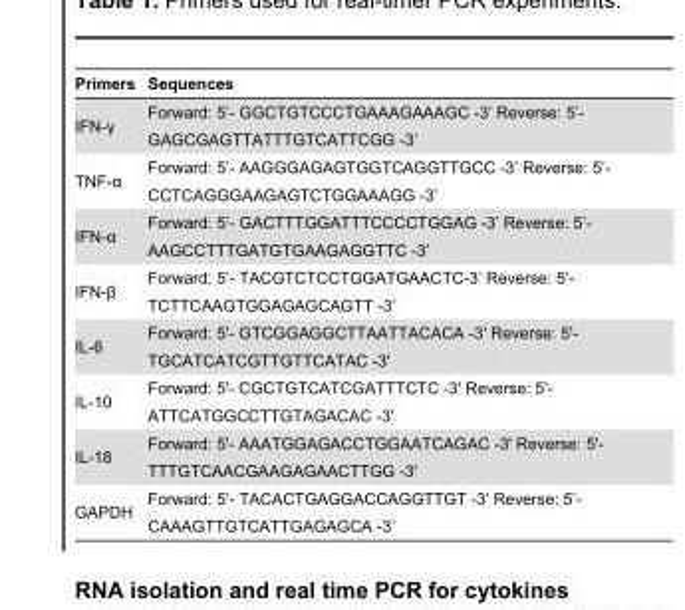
<table><thead><tr><td>Primers</td><td>Sequences</td></tr></thead><tbody><tr><td>IFN-γ</td><td>Forward: 5’- GGCTGTCCCTGAAAGAAAGC -3’ Reverse: 5’- GAGCGAGTTATTTGTCATTCGG -3’</td></tr><tr><td>TNF-α</td><td>Forward: 5’- AAGGGAGAGTGGTCAGGTTGCC -3’ Reverse: 5’- CCTCAGGGAAGAGTCTGGAAAGG -3’</td></tr><tr><td>IFN-α</td><td>Forward: 5’- GACTTTGGATTTCCCCTGGAG -3’ Reverse: 5’- AAGCCTTTGATGTGAAGAGGTTC -3’</td></tr><tr><td>IFN-β</td><td>Forward: 5’- TACGTCTCCTGGATGAACTC-3’ Reverse: 5’- TCTTCAAGTGGAGAGCAGTT -3’</td></tr><tr><td>IL-6</td><td>Forward: 5&#x27;- GTCGGAGGCTTAATTACACA -3&#x27; Reverse: 5&#x27;- TGCATCATCGTTGTTCATAC -3&#x27;</td></tr><tr><td>IL-10</td><td>Forward: 5&#x27;- CGCTGTCATCGATTTCTC -3&#x27; Reverse: 5&#x27;- ATTCATGGCCTTGTAGACAC -3&#x27;</td></tr><tr><td>IL-18</td><td>Forward: 5&#x27;- AAATGGAGACCTGGAATCAGAC -3&#x27; Reverse: 5&#x27;- TTTGTCAACGAAGAGAACTTGG -3&#x27;</td></tr><tr><td>GAPDH</td><td>Forward: 5’- TACACTGAGGACCAGGTTGT -3’ Reverse: 5’- CAAAGTTGTCATTGAGAGCA -3’</td></tr></tbody></table>